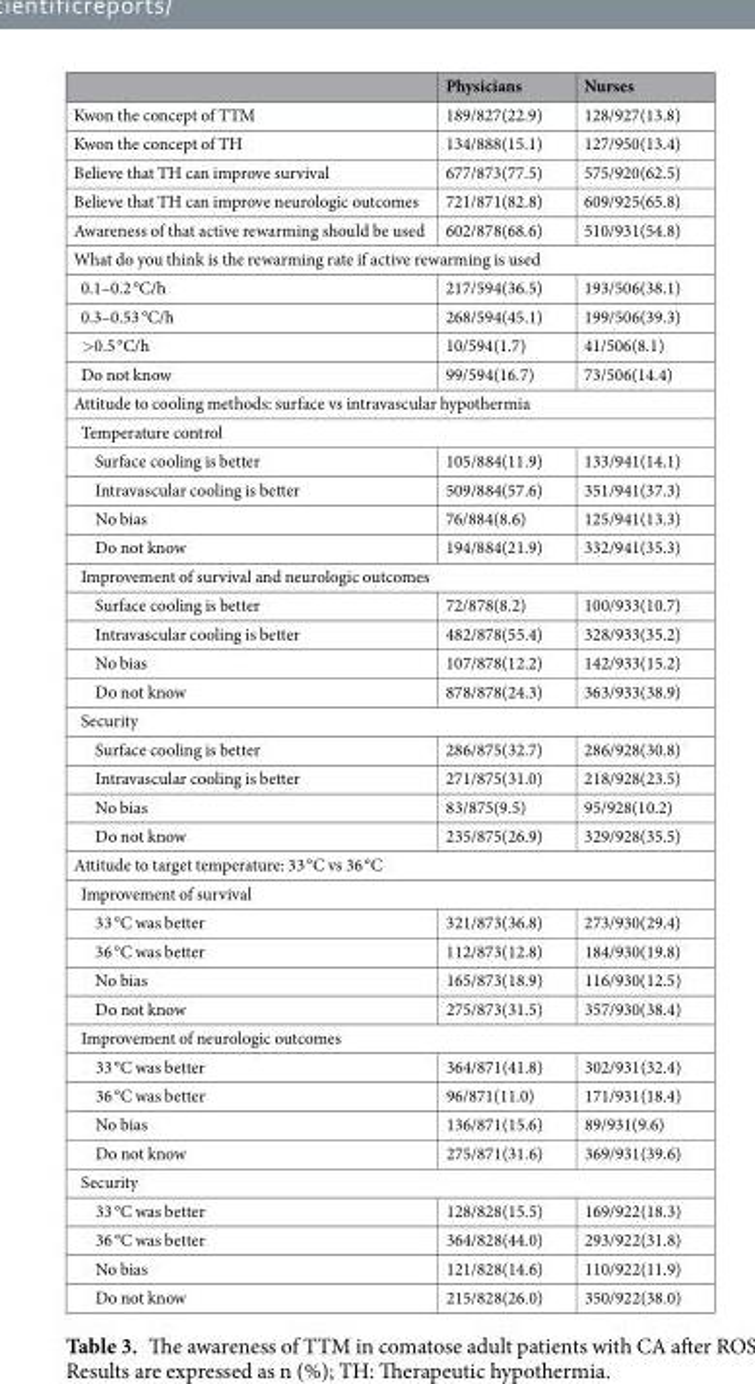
<table><thead><tr><td></td><td>Physicians</td><td>Nurses</td></tr></thead><tbody><tr><td>Kwon the concept of TTM</td><td>189/827(22.9)</td><td>128/927(13.8)</td></tr><tr><td>Kwon the concept of TH</td><td>134/888(15.1)</td><td>127/950(13.4)</td></tr><tr><td>Believe that TH can improve survival</td><td>677/873(77.5)</td><td>575/920(62.5)</td></tr><tr><td>Believe that TH can improve neurologic outcomes</td><td>721/871(82.8)</td><td>609/925(65.8)</td></tr><tr><td>Awareness of that active rewarming should be used</td><td>602/878(68.6)</td><td>510/931(54.8)</td></tr><tr><td colspan="3">What do you think is the rewarming rate if active rewarming is used</td></tr><tr><td>0.1–0.2 °C/h</td><td>217/594(36.5)</td><td>193/506(38.1)</td></tr><tr><td>0.3–0.53 °C/h</td><td>268/594(45.1)</td><td>199/506(39.3)</td></tr><tr><td>&gt;0.5 °C/h</td><td>10/594(1.7)</td><td>41/506(8.1)</td></tr><tr><td>Do not know</td><td>99/594(16.7)</td><td>73/506(14.4)</td></tr><tr><td colspan="3">Attitude to cooling methods: surface vs intravascular hypothermia</td></tr><tr><td colspan="3">Temperature control</td></tr><tr><td>Surface cooling is better</td><td>105/884(11.9)</td><td>133/941(14.1)</td></tr><tr><td>Intravascular cooling is better</td><td>509/884(57.6)</td><td>351/941(37.3)</td></tr><tr><td>No bias</td><td>76/884(8.6)</td><td>125/941(13.3)</td></tr><tr><td>Do not know</td><td>194/884(21.9)</td><td>332/941(35.3)</td></tr><tr><td colspan="3">Improvement of survival and neurologic outcomes</td></tr><tr><td>Surface cooling is better</td><td>72/878(8.2)</td><td>100/933(10.7)</td></tr><tr><td>Intravascular cooling is better</td><td>482/878(55.4)</td><td>328/933(35.2)</td></tr><tr><td>No bias</td><td>107/878(12.2)</td><td>142/933(15.2)</td></tr><tr><td>Do not know</td><td>878/878(24.3)</td><td>363/933(38.9)</td></tr><tr><td colspan="3">Security</td></tr><tr><td>Surface cooling is better</td><td>286/875(32.7)</td><td>286/928(30.8)</td></tr><tr><td>Intravascular cooling is better</td><td>271/875(31.0)</td><td>218/928(23.5)</td></tr><tr><td>No bias</td><td>83/875(9.5)</td><td>95/928(10.2)</td></tr><tr><td>Do not know</td><td>235/875(26.9)</td><td>329/928(35.5)</td></tr><tr><td colspan="3">Attitude to target temperature: 33 °C vs 36 °C</td></tr><tr><td colspan="3">Improvement of survival</td></tr><tr><td>33 °C was better</td><td>321/873(36.8)</td><td>273/930(29.4)</td></tr><tr><td>36 °C was better</td><td>112/873(12.8)</td><td>184/930(19.8)</td></tr><tr><td>No bias</td><td>165/873(18.9)</td><td>116/930(12.5)</td></tr><tr><td>Do not know</td><td>275/873(31.5)</td><td>357/930(38.4)</td></tr><tr><td colspan="3">Improvement of neurologic outcomes</td></tr><tr><td>33 °C was better</td><td>364/871(41.8)</td><td>302/931(32.4)</td></tr><tr><td>36 °C was better</td><td>96/871(11.0)</td><td>171/931(18.4)</td></tr><tr><td>No bias</td><td>136/871(15.6)</td><td>89/931(9.6)</td></tr><tr><td>Do not know</td><td>275/871(31.6)</td><td>369/931(39.6)</td></tr><tr><td colspan="3">Security</td></tr><tr><td>33 °C was better</td><td>128/828(15.5)</td><td>169/922(18.3)</td></tr><tr><td>36 °C was better</td><td>364/828(44.0)</td><td>293/922(31.8)</td></tr><tr><td>No bias</td><td>121/828(14.6)</td><td>110/922(11.9)</td></tr><tr><td>Do not know</td><td>215/828(26.0)</td><td>350/922(38.0)</td></tr></tbody></table>